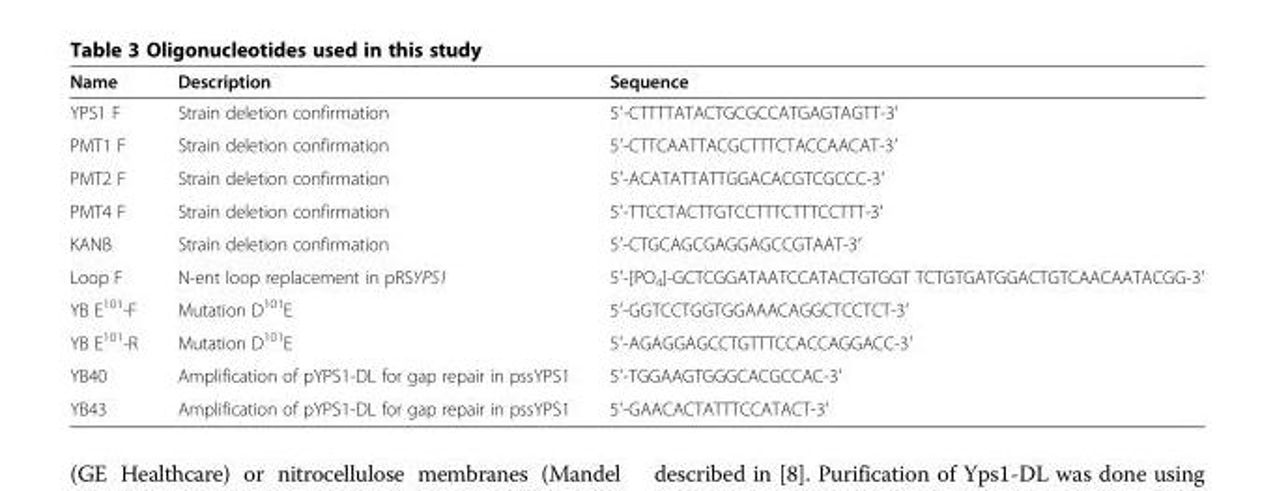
<table><thead><tr><td>Name</td><td>Description</td><td>Sequence</td></tr></thead><tbody><tr><td>YPS1 F</td><td>Strain deletion confirmation</td><td>5′-CTTTTATACTGCGCCATGAGTAGTT-3′</td></tr><tr><td>PMT1 F</td><td>Strain deletion confirmation</td><td>5′-CTTCAATTACGCTTTCTACCAACAT-3′</td></tr><tr><td>PMT2 F</td><td>Strain deletion confirmation</td><td>5′-ACATATTATTGGACACGTCGCCC-3′</td></tr><tr><td>PMT4 F</td><td>Strain deletion confirmation</td><td>5′-TTCCTACTTGTCCTTTCTTTCCTTT-3′</td></tr><tr><td>KANB</td><td>Strain deletion confirmation</td><td>5′-CTGCAGCGAGGAGCCGTAAT-3′</td></tr><tr><td>Loop F</td><td>N-ent loop replacement in pRSYPS1</td><td>5′-[PO<sub>4</sub>]-GCTCGGATAATCCATACTGTGGT TCTGTGATGGACTGTCAACAATACGG-3′</td></tr><tr><td>YB E<sup>101</sup>-F</td><td>Mutation D<sup>101</sup>E</td><td>5′-GGTCCTGGTGGAAACAGGCTCCTCT-3′</td></tr><tr><td>YB E<sup>101</sup>-R</td><td>Mutation D<sup>101</sup>E</td><td>5′-AGAGGAGCCTGTTTCCACCAGGACC-3′</td></tr><tr><td>YB40</td><td>Amplification of pYPS1-DL for gap repair in pssYPS1</td><td>5′-TGGAAGTGGGCACGCCAC-3′</td></tr><tr><td>YB43</td><td>Amplification of pYPS1-DL for gap repair in pssYPS1</td><td>5′-GAACACTATTTCCATACT-3′</td></tr></tbody></table>